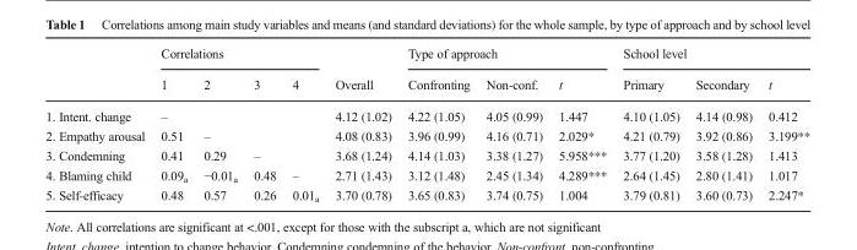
<table><thead><tr><td rowspan="2"></td><td colspan="4">Correlations</td><td rowspan="2">Overall</td><td colspan="3">Type of approach</td><td colspan="3">School level</td></tr><tr><td>1</td><td>2</td><td>3</td><td>4</td><td>Confronting</td><td>Non-conf.</td><td>t</td><td>Primary</td><td>Secondary</td><td>t</td></tr></thead><tbody><tr><td>1. Intent. change</td><td>–</td><td></td><td></td><td></td><td>4.12 (1.02)</td><td>4.22 (1.05)</td><td>4.05 (0.99)</td><td>1.447</td><td>4.10 (1.05)</td><td>4.14 (0.98)</td><td>0.412</td></tr><tr><td>2. Empathy arousal</td><td>0.51</td><td>–</td><td></td><td></td><td>4.08 (0.83)</td><td>3.96 (0.99)</td><td>4.16 (0.71)</td><td>2.029*</td><td>4.21 (0.79)</td><td>3.92 (0.86)</td><td>3.199**</td></tr><tr><td>3. Condemning</td><td>0.41</td><td>0.29</td><td>–</td><td></td><td>3.68 (1.24)</td><td>4.14 (1.03)</td><td>3.38 (1.27)</td><td>5.958***</td><td>3.77 (1.20)</td><td>3.58 (1.28)</td><td>1.413</td></tr><tr><td>4. Blaming child</td><td>0.09<sub>a</sub></td><td>−0.01<sub>a</sub></td><td>0.48</td><td>–</td><td>2.71 (1.43)</td><td>3.12 (1.48)</td><td>2.45 (1.34)</td><td>4.289***</td><td>2.64 (1.45)</td><td>2.80 (1.41)</td><td>1.017</td></tr><tr><td>5. Self-efficacy</td><td>0.48</td><td>0.57</td><td>0.26</td><td>0.01<sub>a</sub></td><td>3.70 (0.78)</td><td>3.65 (0.83)</td><td>3.74 (0.75)</td><td>1.004</td><td>3.79 (0.81)</td><td>3.60 (0.73)</td><td>2.247*</td></tr></tbody></table>